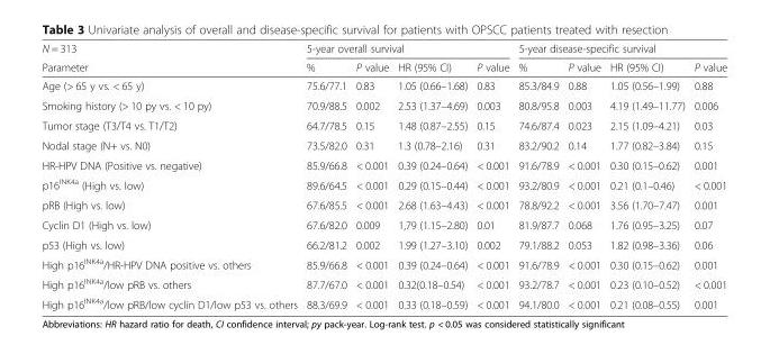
<table><thead><tr><td rowspan="2">N = 313 Parameter</td><td colspan="4">5-year overall survival</td><td colspan="4">5-year disease-specific survival</td></tr><tr><td>%</td><td>P value</td><td>HR (95% CI)</td><td>P value</td><td>%</td><td>P value</td><td>HR (95% CI)</td><td>P value</td></tr></thead><tbody><tr><td>Age (&gt; 65 y vs. &lt; 65 y)</td><td>75.6/77.1</td><td>0.83</td><td>1.05 (0.66–1.68)</td><td>0.83</td><td>85.3/84.9</td><td>0.88</td><td>1.05 (0.56–1.99)</td><td>0.88</td></tr><tr><td>Smoking history (&gt; 10 py vs. &lt; 10 py)</td><td>70.9/88.5</td><td>0.002</td><td>2.53 (1.37–4.69)</td><td>0.003</td><td>80.8/95.8</td><td>0.003</td><td>4.19 (1.49–11.77)</td><td>0.006</td></tr><tr><td>Tumor stage (T3/T4 vs. T1/T2)</td><td>64.7/78.5</td><td>0.15</td><td>1.48 (0.87–2.55)</td><td>0.15</td><td>74.6/87.4</td><td>0.023</td><td>2.15 (1.09–4.21)</td><td>0.03</td></tr><tr><td>Nodal stage (N+ vs. N0)</td><td>73.5/82.0</td><td>0.31</td><td>1.3 (0.78–2.16)</td><td>0.31</td><td>83.2/90.2</td><td>0.14</td><td>1.77 (0.82–3.84)</td><td>0.15</td></tr><tr><td>HR-HPV DNA (Positive vs. negative)</td><td>85.9/66.8</td><td>&lt; 0.001</td><td>0.39 (0.24–0.64)</td><td>&lt; 0.001</td><td>91.6/78.9</td><td>&lt; 0.001</td><td>0.30 (0.15–0.62)</td><td>0.001</td></tr><tr><td>p16<sup>INK4a</sup> (High vs. low)</td><td>89.6/64.5</td><td>&lt; 0.001</td><td>0.29 (0.15–0.44)</td><td>&lt; 0.001</td><td>93.2/80.9</td><td>&lt; 0.001</td><td>0.21 (0.1–0.46)</td><td>&lt; 0.001</td></tr><tr><td>pRB (High vs. low)</td><td>67.6/85.5</td><td>&lt; 0.001</td><td>2.68 (1.63–4.43)</td><td>&lt; 0.001</td><td>78.8/92.2</td><td>&lt; 0.001</td><td>3.56 (1.70–7.47)</td><td>0.001</td></tr><tr><td>Cyclin D1 (High vs. low)</td><td>67.6/82.0</td><td>0.009</td><td>1,79 (1.15–2.80)</td><td>0.01</td><td>81.9/87.7</td><td>0.068</td><td>1.76 (0.95–3.25)</td><td>0.07</td></tr><tr><td>p53 (High vs. low)</td><td>66.2/81.2</td><td>0.002</td><td>1.99 (1.27–3.10)</td><td>0.002</td><td>79.1/88.2</td><td>0.053</td><td>1.82 (0.98–3.36)</td><td>0.06</td></tr><tr><td>High p16<sup>INK4a</sup>/HR-HPV DNA positive vs. others</td><td>85.9/66.8</td><td>&lt; 0.001</td><td>0.39 (0.24–0.64)</td><td>&lt; 0.001</td><td>91.6/78.9</td><td>&lt; 0.001</td><td>0.30 (0.15–0.62)</td><td>0.001</td></tr><tr><td>High p16<sup>INK4a</sup>/low pRB vs. others</td><td>87.7/67.0</td><td>&lt; 0.001</td><td>0.32(0.18–0.54)</td><td>&lt; 0.001</td><td>93.2/78.7</td><td>&lt; 0.001</td><td>0.23 (0.10–0.52)</td><td>&lt; 0.001</td></tr><tr><td>High p16<sup>INK4a</sup>/low pRB/low cyclin D1/low p53 vs. others</td><td>88.3/69.9</td><td>&lt; 0.001</td><td>0.33 (0.18–0.59)</td><td>&lt; 0.001</td><td>94.1/80.0</td><td>&lt; 0.001</td><td>0.21 (0.08–0.55)</td><td>0.001</td></tr></tbody></table>